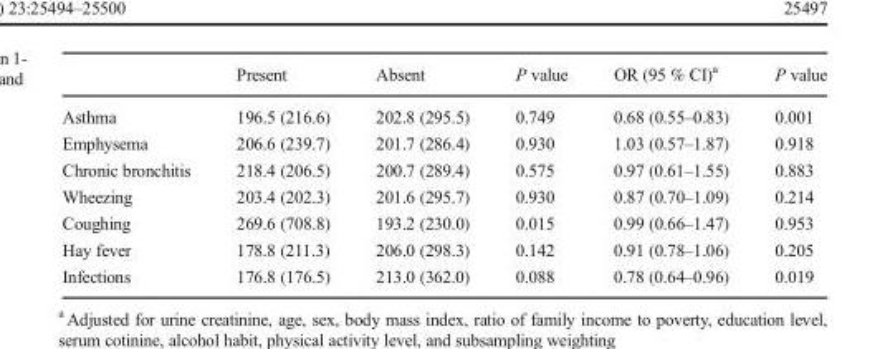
<table><thead><tr><td></td><td>Present</td><td>Absent</td><td>P value</td><td>OR (95 % CI)<sup>a</sup></td><td>P value</td></tr></thead><tbody><tr><td>Asthma</td><td>196.5 (216.6)</td><td>202.8 (295.5)</td><td>0.749</td><td>0.68 (0.55–0.83)</td><td>0.001</td></tr><tr><td>Emphysema</td><td>206.6 (239.7)</td><td>201.7 (286.4)</td><td>0.930</td><td>1.03 (0.57–1.87)</td><td>0.918</td></tr><tr><td>Chronic bronchitis</td><td>218.4 (206.5)</td><td>200.7 (289.4)</td><td>0.575</td><td>0.97 (0.61–1.55)</td><td>0.883</td></tr><tr><td>Wheezing</td><td>203.4 (202.3)</td><td>201.6 (295.7)</td><td>0.930</td><td>0.87 (0.70–1.09)</td><td>0.214</td></tr><tr><td>Coughing</td><td>269.6 (708.8)</td><td>193.2 (230.0)</td><td>0.015</td><td>0.99 (0.66–1.47)</td><td>0.953</td></tr><tr><td>Hay fever</td><td>178.8 (211.3)</td><td>206.0 (298.3)</td><td>0.142</td><td>0.91 (0.78–1.06)</td><td>0.205</td></tr><tr><td>Infections</td><td>176.8 (176.5)</td><td>213.0 (362.0)</td><td>0.088</td><td>0.78 (0.64–0.96)</td><td>0.019</td></tr></tbody></table>